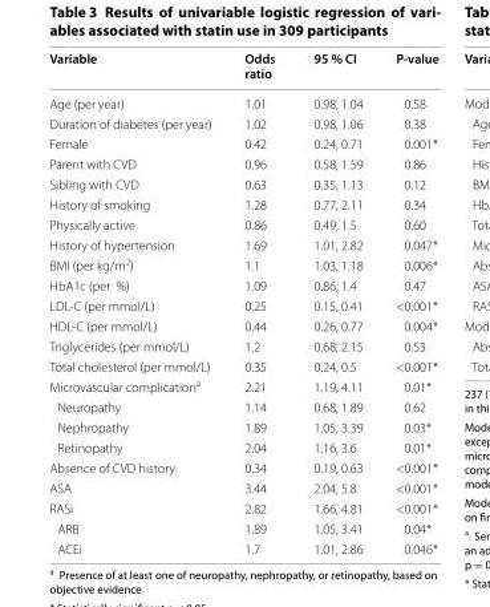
<table><thead><tr><td>Variable</td><td>Odds ratio</td><td>95 % CI</td><td>P‑value</td></tr></thead><tbody><tr><td>Age (per year)</td><td>1.01</td><td>0.98, 1.04</td><td>0.58</td></tr><tr><td>Duration of diabetes (per year)</td><td>1.02</td><td>0.98, 1.06</td><td>0.38</td></tr><tr><td>Female</td><td>0.42</td><td>0.24, 0.71</td><td>0.001*</td></tr><tr><td>Parent with CVD</td><td>0.96</td><td>0.58, 1.59</td><td>0.86</td></tr><tr><td>Sibling with CVD</td><td>0.63</td><td>0.35, 1.13</td><td>0.12</td></tr><tr><td>History of smoking</td><td>1.28</td><td>0.77, 2.11</td><td>0.34</td></tr><tr><td>Physically active</td><td>0.86</td><td>0.49, 1.5</td><td>0.60</td></tr><tr><td>History of hypertension</td><td>1.69</td><td>1.01, 2.82</td><td>0.047*</td></tr><tr><td>BMI (per kg/m<sup>2</sup>)</td><td>1.1</td><td>1.03, 1.18</td><td>0.006*</td></tr><tr><td>HbA1c (per %)</td><td>1.09</td><td>0.86, 1.4</td><td>0.47</td></tr><tr><td>LDL-C (per mmol/L)</td><td>0.25</td><td>0.15, 0.41</td><td>&lt;0.001*</td></tr><tr><td>HDL-C (per mmol/L)</td><td>0.44</td><td>0.26, 0.77</td><td>0.004*</td></tr><tr><td>Triglycerides (per mmol/L)</td><td>1.2</td><td>0.68, 2.15</td><td>0.53</td></tr><tr><td>Total cholesterol (per mmol/L)</td><td>0.35</td><td>0.24, 0.5</td><td>&lt;0.001*</td></tr><tr><td>Microvascular complication<sup>a</sup></td><td>2.21</td><td>1.19, 4.11</td><td>0.01*</td></tr><tr><td>Neuropathy</td><td>1.14</td><td>0.68, 1.89</td><td>0.62</td></tr><tr><td>Nephropathy</td><td>1.89</td><td>1.05, 3.39</td><td>0.03*</td></tr><tr><td>Retinopathy</td><td>2.04</td><td>1.16, 3.6</td><td>0.01*</td></tr><tr><td>Absence of CVD history</td><td>0.34</td><td>0.19, 0.63</td><td>&lt;0.001*</td></tr><tr><td>ASA</td><td>3.44</td><td>2.04, 5.8</td><td>&lt;0.001*</td></tr><tr><td>RASi</td><td>2.82</td><td>1.66, 4.81</td><td>&lt;0.001*</td></tr><tr><td>ARB</td><td>1.89</td><td>1.05, 3.41</td><td>0.04*</td></tr><tr><td>ACEi</td><td>1.7</td><td>1.01, 2.86</td><td>0.046*</td></tr></tbody></table>